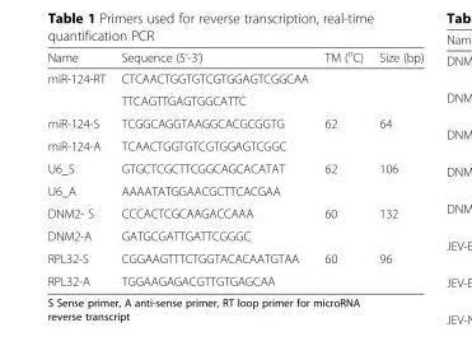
<table><thead><tr><td>Name</td><td>Sequence (5’-3’)</td><td>TM (<sup>o</sup>C)</td><td>Size (bp)</td></tr></thead><tbody><tr><td rowspan="2">miR-124-RT</td><td>CTCAACTGGTGTCGTGGAGTCGGCAA</td><td></td><td></td></tr><tr><td>TTCAGTTGAGTGGCATTC</td><td></td><td></td></tr><tr><td>miR-124-S</td><td>TCGGCAGGTAAGGCACGCGGTG</td><td>62</td><td>64</td></tr><tr><td>miR-124-A</td><td>TCAACTGGTGTCGTGGAGTCGGC</td><td></td><td></td></tr><tr><td>U6_S</td><td>GTGCTCGCTTCGGCAGCACATAT</td><td>62</td><td>106</td></tr><tr><td>U6_A</td><td>AAAATATGGAACGCTTCACGAA</td><td></td><td></td></tr><tr><td>DNM2- S</td><td>CCCACTCGCAAGACCAAA</td><td>60</td><td>132</td></tr><tr><td>DNM2-A</td><td>GATGCGATTGATTCGGGC</td><td></td><td></td></tr><tr><td>RPL32-S</td><td>CGGAAGTTTCTGGTACACAATGTAA</td><td>60</td><td>96</td></tr><tr><td>RPL32-A</td><td>TGGAAGAGACGTTGTGAGCAA</td><td></td><td></td></tr></tbody></table>